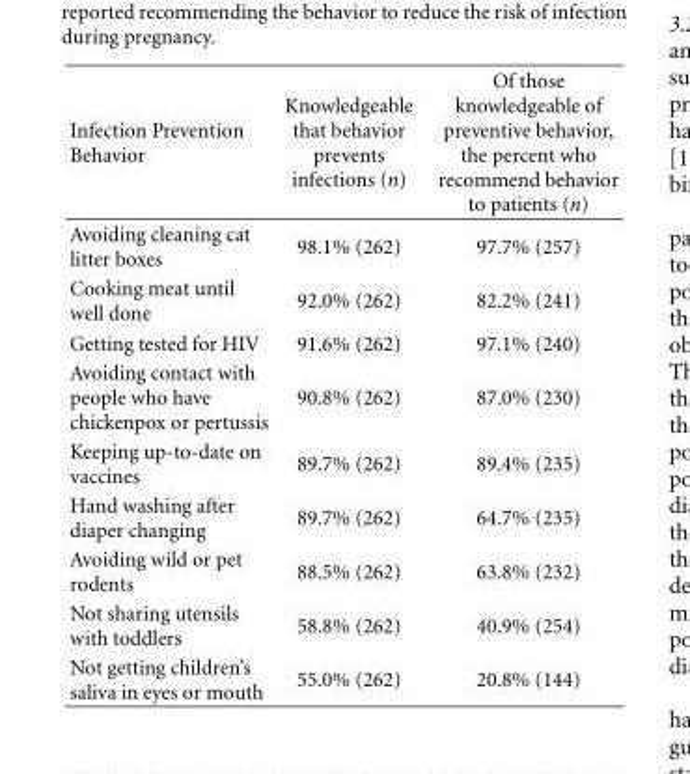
<table><thead><tr><td>Infection Prevention Behavior</td><td>Knowledgeable that behavior prevents infections (n)</td><td>Of those knowledgeable of preventive behavior, the percent who recommend behavior to patients (n)</td></tr></thead><tbody><tr><td>Avoiding cleaning cat litter boxes</td><td>98.1% (262)</td><td>97.7% (257)</td></tr><tr><td>Cooking meat until well done</td><td>92.0% (262)</td><td>82.2% (241)</td></tr><tr><td>Getting tested for HIV</td><td>91.6% (262)</td><td>97.1% (240)</td></tr><tr><td>Avoiding contact with people who have chickenpox or pertussis</td><td>90.8% (262)</td><td>87.0% (230)</td></tr><tr><td>Keeping up-to-date on vaccines</td><td>89.7% (262)</td><td>89.4% (235)</td></tr><tr><td>Hand washing after diaper changing</td><td>89.7% (262)</td><td>64.7% (235)</td></tr><tr><td>Avoiding wild or pet rodents</td><td>88.5% (262)</td><td>63.8% (232)</td></tr><tr><td>Not sharing utensils with toddlers</td><td>58.8% (262)</td><td>40.9% (254)</td></tr><tr><td>Not getting children’s saliva in eyes or mouth</td><td>55.0% (262)</td><td>20.8% (144)</td></tr></tbody></table>